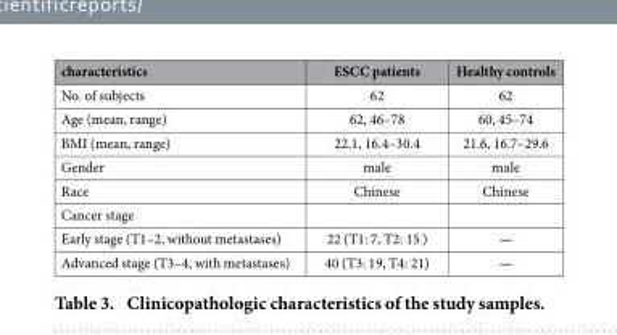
<table><thead><tr><td>characteristics</td><td>ESCC patients</td><td>Healthy controls</td></tr></thead><tbody><tr><td>No. of subjects</td><td>62</td><td>62</td></tr><tr><td>Age (mean, range)</td><td>62, 46–78</td><td>60, 45–74</td></tr><tr><td>BMI (mean, range)</td><td>22.1, 16.4–30.4</td><td>21.6, 16.7–29.6</td></tr><tr><td>Gender</td><td>male</td><td>male</td></tr><tr><td>Race</td><td>Chinese</td><td>Chinese</td></tr><tr><td colspan="3">Cancer stage</td></tr><tr><td>Early stage (T1–2, without metastases)</td><td>22 (T1: 7, T2: 15 )</td><td>—</td></tr><tr><td>Advanced stage (T3–4, with metastases)</td><td>40 (T3: 19, T4: 21)</td><td>—</td></tr></tbody></table>